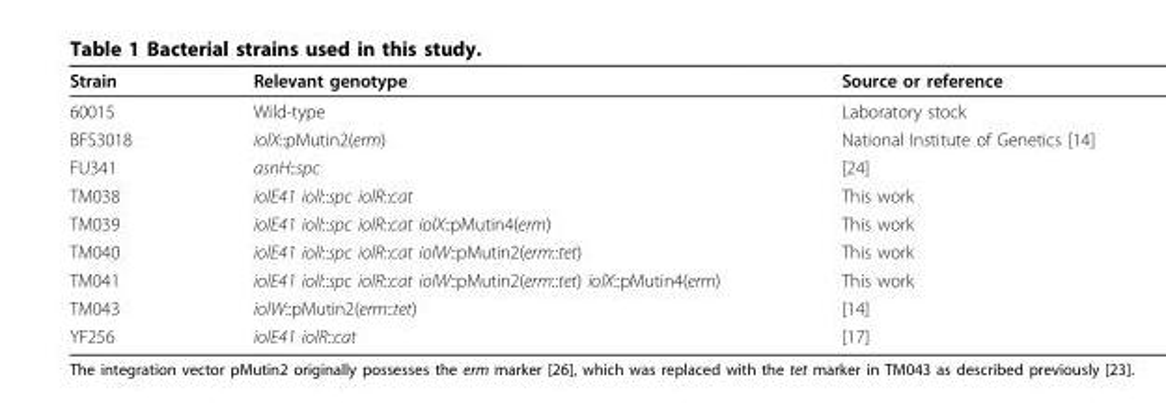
<table><thead><tr><td>Strain</td><td>Relevant genotype</td><td>Source or reference</td></tr></thead><tbody><tr><td>60015</td><td>Wild-type</td><td>Laboratory stock</td></tr><tr><td>BFS3018</td><td>iolX::pMutin2(erm)</td><td>National Institute of Genetics [14]</td></tr><tr><td>FU341</td><td>asnH::spc</td><td>[24]</td></tr><tr><td>TM038</td><td>iolE41 iolI::spc iolR::cat</td><td>This work</td></tr><tr><td>TM039</td><td>iolE41 iolI::spc iolR::cat iolX::pMutin4(erm)</td><td>This work</td></tr><tr><td>TM040</td><td>iolE41 iolI::spc iolR::cat iolW::pMutin2(erm::tet)</td><td>This work</td></tr><tr><td>TM041</td><td>iolE41 iolI::spc iolR::cat iolW::pMutin2(erm::tet) iolX::pMutin4(erm)</td><td>This work</td></tr><tr><td>TM043</td><td>iolW::pMutin2(erm::tet)</td><td>[14]</td></tr><tr><td>YF256</td><td>iolE41 iolR::cat</td><td>[17]</td></tr></tbody></table>